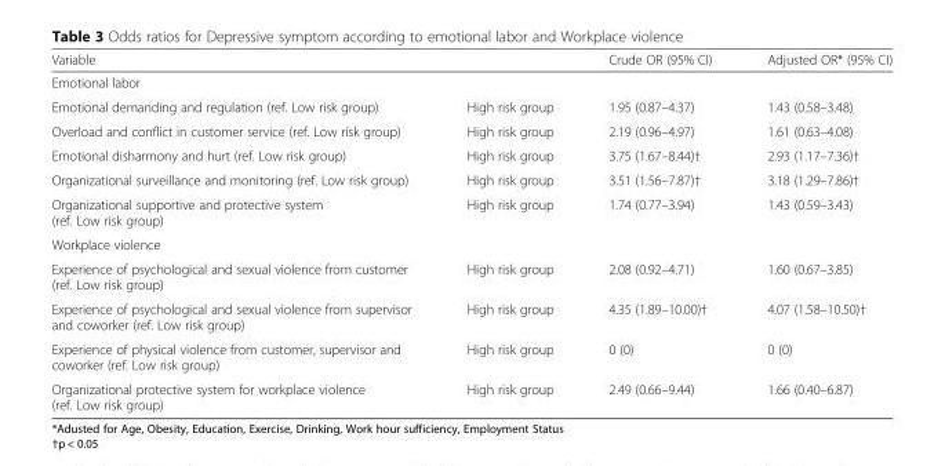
<table><thead><tr><td>Variable</td><td></td><td>Crude OR (95% CI)</td><td>Adjusted OR* (95% CI)</td></tr></thead><tbody><tr><td colspan="4">Emotional labor</td></tr><tr><td>Emotional demanding and regulation (ref. Low risk group)</td><td>High risk group</td><td>1.95 (0.87–4.37)</td><td>1.43 (0.58–3.48)</td></tr><tr><td>Overload and conflict in customer service (ref. Low risk group)</td><td>High risk group</td><td>2.19 (0.96–4.97)</td><td>1.61 (0.63–4.08)</td></tr><tr><td>Emotional disharmony and hurt (ref. Low risk group)</td><td>High risk group</td><td>3.75 (1.67–8.44)†</td><td>2.93 (1.17–7.36)†</td></tr><tr><td>Organizational surveillance and monitoring (ref. Low risk group)</td><td>High risk group</td><td>3.51 (1.56–7.87)†</td><td>3.18 (1.29–7.86)†</td></tr><tr><td>Organizational supportive and protective system (ref. Low risk group)</td><td>High risk group</td><td>1.74 (0.77–3.94)</td><td>1.43 (0.59–3.43)</td></tr><tr><td colspan="4">Workplace violence</td></tr><tr><td>Experience of psychological and sexual violence from customer (ref. Low risk group)</td><td>High risk group</td><td>2.08 (0.92–4.71)</td><td>1.60 (0.67–3.85)</td></tr><tr><td>Experience of psychological and sexual violence from supervisor and coworker (ref. Low risk group)</td><td>High risk group</td><td>4.35 (1.89–10.00)†</td><td>4.07 (1.58–10.50)†</td></tr><tr><td>Experience of physical violence from customer, supervisor and coworker (ref. Low risk group)</td><td>High risk group</td><td>0 (0)</td><td>0 (0)</td></tr><tr><td>Organizational protective system for workplace violence (ref. Low risk group)</td><td>High risk group</td><td>2.49 (0.66–9.44)</td><td>1.66 (0.40–6.87)</td></tr></tbody></table>